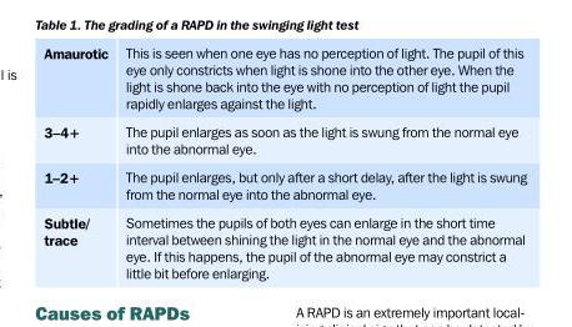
<table><tbody><tr><td>amaurotic</td><td>This is seen when one eye has no perception of light. The pupil of this eye only constricts when light is shone into the other eye. When the light is shone back into the eye with no perception of light the pupil rapidly enlarges against the light.</td></tr><tr><td>3–4+</td><td>The pupil enlarges as soon as the light is swung from the normal eye into the abnormal eye.</td></tr><tr><td>1–2+</td><td>The pupil enlarges, but only after a short delay, after the light is swung from the normal eye into the abnormal eye.</td></tr><tr><td>Subtle/ trace</td><td>Sometimes the pupils of both eyes can enlarge in the short time interval between shining the light in the normal eye and the abnormal eye. If this happens, the pupil of the abnormal eye may constrict a little bit before enlarging.</td></tr></tbody></table>